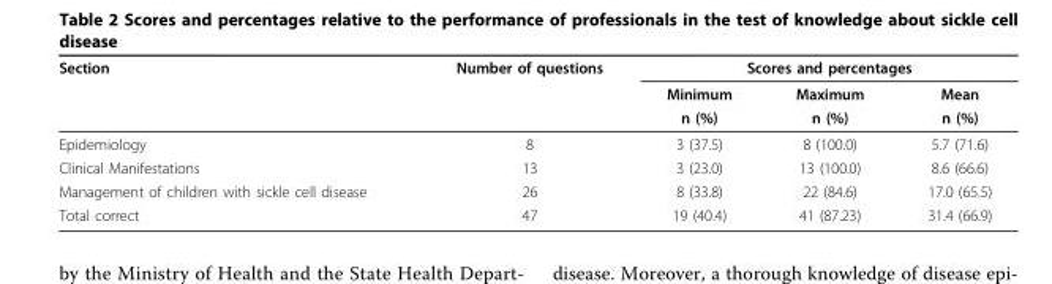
<table><thead><tr><td rowspan="3">Section</td><td rowspan="3">Number of questions</td><td colspan="3">Scores and percentages</td></tr><tr><td rowspan="2">Minimum n (%)</td><td rowspan="2">Maximum n (%)</td><td rowspan="2">Mean n (%)</td></tr><tr></tr></thead><tbody><tr><td>Epidemiology</td><td>8</td><td>3 (37.5)</td><td>8 (100.0)</td><td>5.7 (71.6)</td></tr><tr><td>Clinical Manifestations</td><td>13</td><td>3 (23.0)</td><td>13 (100.0)</td><td>8.6 (66.6)</td></tr><tr><td>Management of children with sickle cell disease</td><td>26</td><td>8 (33.8)</td><td>22 (84.6)</td><td>17.0 (65.5)</td></tr><tr><td>Total correct</td><td>47</td><td>19 (40.4)</td><td>41 (87.23)</td><td>31.4 (66.9)</td></tr></tbody></table>